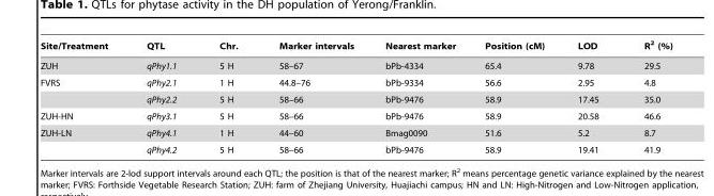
<table><thead><tr><td>Site/Treatment</td><td>QTL</td><td>Chr.</td><td>Marker intervals</td><td>Nearest marker</td><td>Position (cM)</td><td>LOD</td><td>R<sup>2</sup> (%)</td></tr></thead><tbody><tr><td>ZUH</td><td>qPhy1.1</td><td>5 H</td><td>58–67</td><td>bPb-4334</td><td>65.4</td><td>9.78</td><td>29.5</td></tr><tr><td rowspan="2">FVRS</td><td>qPhy2.1</td><td>1 H</td><td>44.8–76</td><td>bPb-9334</td><td>56.6</td><td>2.95</td><td>4.8</td></tr><tr><td>qPhy2.2</td><td>5 H</td><td>58–66</td><td>bPb-9476</td><td>58.9</td><td>17.45</td><td>35.0</td></tr><tr><td>ZUH-HN</td><td>qPhy3.1</td><td>5 H</td><td>58–66</td><td>bPb-9476</td><td>58.9</td><td>20.58</td><td>46.6</td></tr><tr><td rowspan="2">ZUH-LN</td><td>qPhy4.1</td><td>1 H</td><td>44–60</td><td>Bmag0090</td><td>51.6</td><td>5.2</td><td>8.7</td></tr><tr><td>qPhy4.2</td><td>5 H</td><td>58–66</td><td>bPb-9476</td><td>58.9</td><td>19.41</td><td>41.9</td></tr></tbody></table>